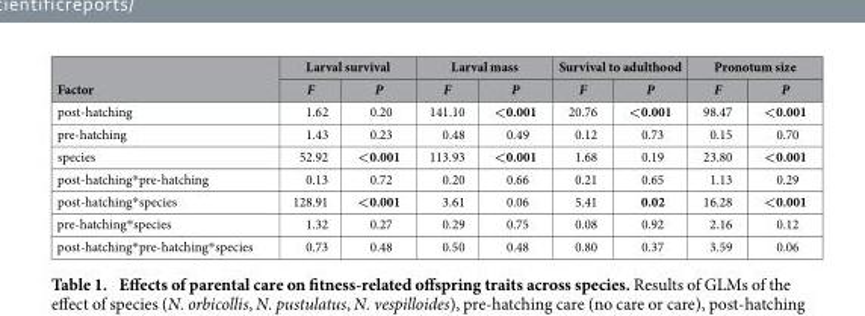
<table><thead><tr><td rowspan="2">Factor</td><td colspan="2">Larval survival</td><td colspan="2">Larval mass</td><td colspan="2">Survival to adulthood</td><td colspan="2">Pronotum size</td></tr><tr><td>F</td><td>P</td><td>F</td><td>P</td><td>F</td><td>P</td><td>F</td><td>P</td></tr></thead><tbody><tr><td>post-hatching</td><td>1.62</td><td>0.20</td><td>141.10</td><td>&lt;0.001</td><td>20.76</td><td>&lt;0.001</td><td>98.47</td><td>&lt;0.001</td></tr><tr><td>pre-hatching</td><td>1.43</td><td>0.23</td><td>0.48</td><td>0.49</td><td>0.12</td><td>0.73</td><td>0.15</td><td>0.70</td></tr><tr><td>species</td><td>52.92</td><td>&lt;0.001</td><td>113.93</td><td>&lt;0.001</td><td>1.68</td><td>0.19</td><td>23.80</td><td>&lt;0.001</td></tr><tr><td>post-hatching* pre-hatching</td><td>0.13</td><td>0.72</td><td>0.20</td><td>0.66</td><td>0.21</td><td>0.65</td><td>1.13</td><td>0.29</td></tr><tr><td>post-hatching* species</td><td>128.91</td><td>&lt;0.001</td><td>3.61</td><td>0.06</td><td>5.41</td><td>0.02</td><td>16.28</td><td>&lt;0.001</td></tr><tr><td>pre-hatching* species</td><td>1.32</td><td>0.27</td><td>0.29</td><td>0.75</td><td>0.08</td><td>0.92</td><td>2.16</td><td>0.12</td></tr><tr><td>post-hatching* pre-hatching* species</td><td>0.73</td><td>0.48</td><td>0.50</td><td>0.48</td><td>0.80</td><td>0.37</td><td>3.59</td><td>0.06</td></tr></tbody></table>